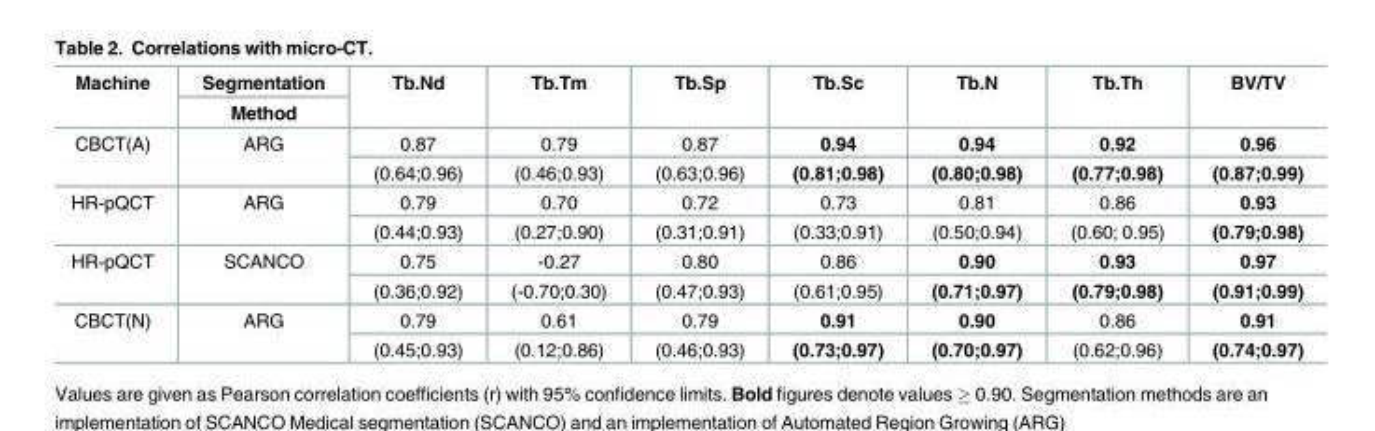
<table><thead><tr><td rowspan="2">Machine</td><td rowspan="2">Segmentation Method</td><td rowspan="2">Tb.Nd</td><td rowspan="2">Tb.Tm</td><td rowspan="2">Tb.Sp</td><td rowspan="2">Tb.Sc</td><td rowspan="2">Tb.N</td><td rowspan="2">Tb.Th</td><td rowspan="2">BV/TV</td></tr><tr></tr></thead><tbody><tr><td rowspan="2">CBCT(A)</td><td rowspan="2">ARG</td><td>0.87</td><td>0.79</td><td>0.87</td><td>0.94</td><td>0.94</td><td>0.92</td><td>0.96</td></tr><tr><td>(0.64;0.96)</td><td>(0.46;0.93)</td><td>(0.63;0.96)</td><td>(0.81;0.98)</td><td>(0.80;0.98)</td><td>(0.77;0.98)</td><td>(0.87;0.99)</td></tr><tr><td rowspan="2">HR-pQCT</td><td rowspan="2">ARG</td><td>0.79</td><td>0.70</td><td>0.72</td><td>0.73</td><td>0.81</td><td>0.86</td><td>0.93</td></tr><tr><td>(0.44;0.93)</td><td>(0.27;0.90)</td><td>(0.31;0.91)</td><td>(0.33;0.91)</td><td>(0.50;0.94)</td><td>(0.60; 0.95)</td><td>(0.79;0.98)</td></tr><tr><td rowspan="2">HR-pQCT</td><td rowspan="2">SCANCO</td><td>0.75</td><td>-0.27</td><td>0.80</td><td>0.86</td><td>0.90</td><td>0.93</td><td>0.97</td></tr><tr><td>(0.36;0.92)</td><td>(-0.70;0.30)</td><td>(0.47;0.93)</td><td>(0.61;0.95)</td><td>(0.71;0.97)</td><td>(0.79;0.98)</td><td>(0.91;0.99)</td></tr><tr><td rowspan="2">CBCT(N)</td><td rowspan="2">ARG</td><td>0.79</td><td>0.61</td><td>0.79</td><td>0.91</td><td>0.90</td><td>0.86</td><td>0.91</td></tr><tr><td>(0.45;0.93)</td><td>(0.12;0.86)</td><td>(0.46;0.93)</td><td>(0.73;0.97)</td><td>(0.70;0.97)</td><td>(0.62;0.96)</td><td>(0.74;0.97)</td></tr></tbody></table>